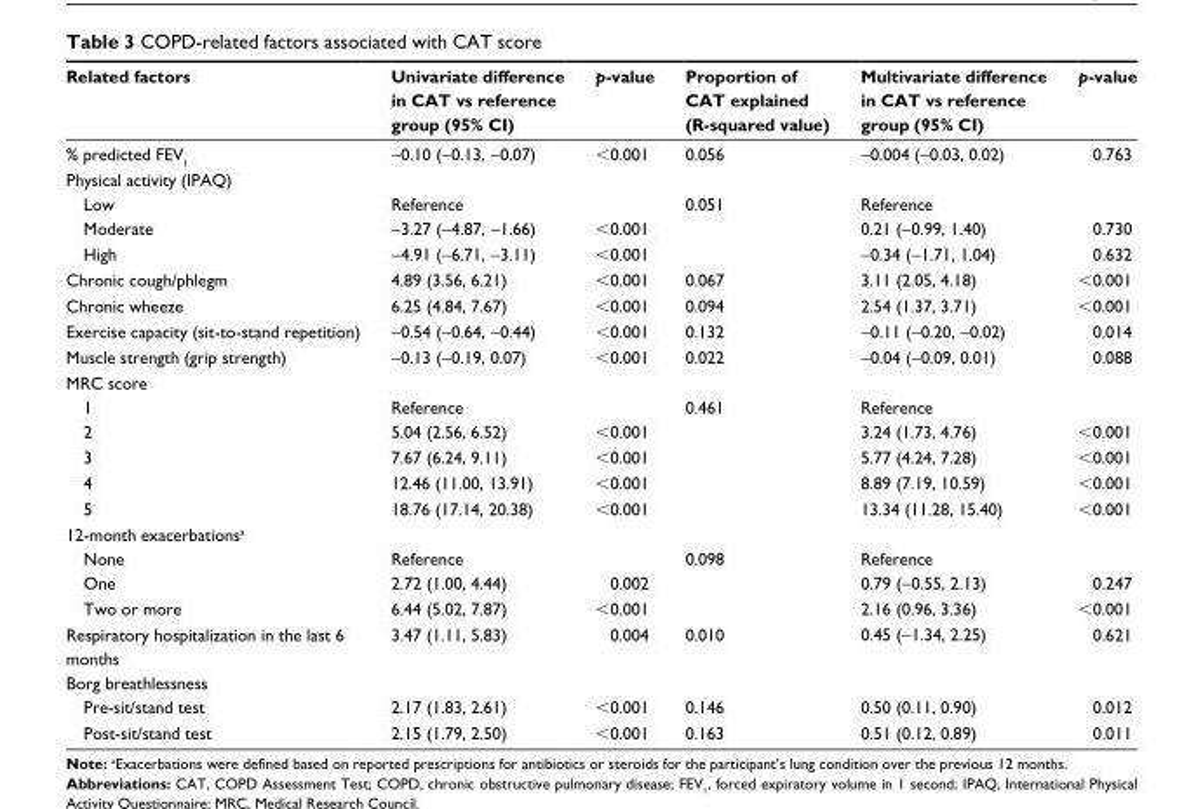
<table><thead><tr><td>Related factors</td><td>Univariate difference in CAT vs reference group (95% CI)</td><td>p-value</td><td>Proportion of CAT explained (R-squared value)</td><td>Multivariate difference in CAT vs reference group (95% CI)</td><td>p-value</td></tr></thead><tbody><tr><td>% predicted FeV<sub>1</sub></td><td>−0.10 (−0.13, −0.07)</td><td>&lt;0.001</td><td>0.056</td><td>−0.004 (−0.03, 0.02)</td><td>0.763</td></tr><tr><td colspan="6">Physical activity (IPaQ)</td></tr><tr><td>low</td><td>reference</td><td></td><td>0.051</td><td>reference</td><td></td></tr><tr><td>Moderate</td><td>−3.27 (−4.87, −1.66)</td><td>&lt;0.001</td><td></td><td>0.21 (−0.99, 1.40)</td><td>0.730</td></tr><tr><td>high</td><td>−4.91 (−6.71, −3.11)</td><td>&lt;0.001</td><td></td><td>−0.34 (−1.71, 1.04)</td><td>0.632</td></tr><tr><td>Chronic cough/phlegm</td><td>4.89 (3.56, 6.21)</td><td>&lt;0.001</td><td>0.067</td><td>3.11 (2.05, 4.18)</td><td>&lt;0.001</td></tr><tr><td>Chronic wheeze</td><td>6.25 (4.84, 7.67)</td><td>&lt;0.001</td><td>0.094</td><td>2.54 (1.37, 3.71)</td><td>&lt;0.001</td></tr><tr><td>exercise capacity (sit-to-stand repetition)</td><td>−0.54 (−0.64, −0.44)</td><td>&lt;0.001</td><td>0.132</td><td>−0.11 (−0.20, −0.02)</td><td>0.014</td></tr><tr><td>Muscle strength (grip strength)</td><td>−0.13 (−0.19, 0.07)</td><td>&lt;0.001</td><td>0.022</td><td>−0.04 (−0.09, 0.01)</td><td>0.088</td></tr><tr><td colspan="6">MrC score</td></tr><tr><td>1</td><td>reference</td><td></td><td>0.461</td><td>reference</td><td></td></tr><tr><td>2</td><td>5.04 (2.56, 6.52)</td><td>&lt;0.001</td><td></td><td>3.24 (1.73, 4.76)</td><td>&lt;0.001</td></tr><tr><td>3</td><td>7.67 (6.24, 9.11)</td><td>&lt;0.001</td><td></td><td>5.77 (4.24, 7.28)</td><td>&lt;0.001</td></tr><tr><td>4</td><td>12.46 (11.00, 13.91)</td><td>&lt;0.001</td><td></td><td>8.89 (7.19, 10.59)</td><td>&lt;0.001</td></tr><tr><td>5</td><td>18.76 (17.14, 20.38)</td><td>&lt;0.001</td><td></td><td>13.34 (11.28, 15.40)</td><td>&lt;0.001</td></tr><tr><td colspan="6">12-month exacerbations<sup>a</sup></td></tr><tr><td>none</td><td>reference</td><td></td><td>0.098</td><td>reference</td><td></td></tr><tr><td>One</td><td>2.72 (1.00, 4.44)</td><td>0.002</td><td></td><td>0.79 (−0.55, 2.13)</td><td>0.247</td></tr><tr><td>Two or more</td><td>6.44 (5.02, 7.87)</td><td>&lt;0.001</td><td></td><td>2.16 (0.96, 3.36)</td><td>&lt;0.001</td></tr><tr><td>respiratory hospitalization in the last 6 months</td><td>3.47 (1.11, 5.83)</td><td>0.004</td><td>0.010</td><td>0.45 (−1.34, 2.25)</td><td>0.621</td></tr><tr><td colspan="6">Borg breathlessness</td></tr><tr><td>Pre-sit/stand test</td><td>2.17 (1.83, 2.61)</td><td>&lt;0.001</td><td>0.146</td><td>0.50 (0.11, 0.90)</td><td>0.012</td></tr><tr><td>Post-sit/stand test</td><td>2.15 (1.79, 2.50)</td><td>&lt;0.001</td><td>0.163</td><td>0.51 (0.12, 0.89)</td><td>0.011</td></tr></tbody></table>